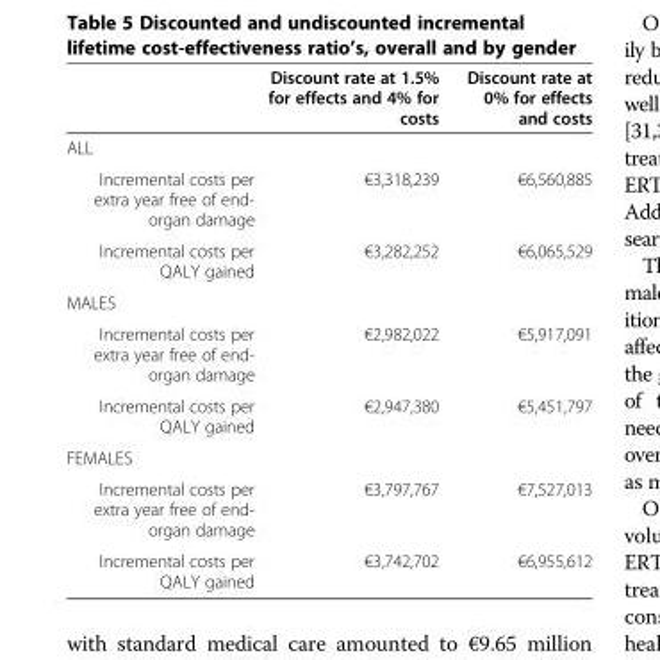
<table><thead><tr><td></td><td>Discount rate at 1.5% for effects and 4% for costs</td><td>Discount rate at 0% for effects and costs</td></tr></thead><tbody><tr><td colspan="3">ALL</td></tr><tr><td>Incremental costs per extra year free of end- organ damage</td><td>€3,318,239</td><td>€6,560,885</td></tr><tr><td>Incremental costs per QALY gained</td><td>€3,282,252</td><td>€6,065,529</td></tr><tr><td colspan="3">MALES</td></tr><tr><td>Incremental costs per extra year free of end- organ damage</td><td>€2,982,022</td><td>€5,917,091</td></tr><tr><td>Incremental costs per QALY gained</td><td>€2,947,380</td><td>€5,451,797</td></tr><tr><td colspan="3">FEMALES</td></tr><tr><td>Incremental costs per extra year free of end- organ damage</td><td>€3,797,767</td><td>€7,527,013</td></tr><tr><td>Incremental costs per QALY gained</td><td>€3,742,702</td><td>€6,955,612</td></tr></tbody></table>